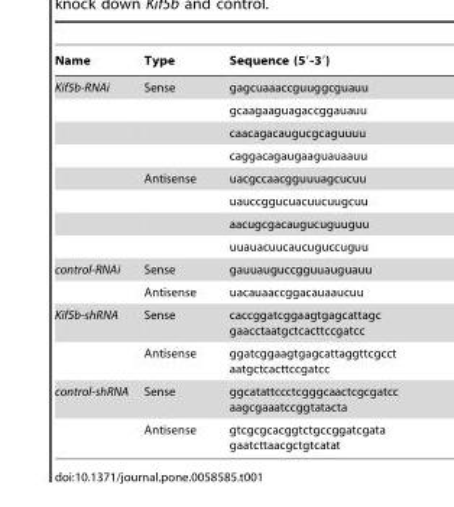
<table><thead><tr><td>Name</td><td>Type</td><td>Sequence (5′-3′)</td></tr></thead><tbody><tr><td rowspan="8">Kif5b-RNAi</td><td>Sense</td><td>gagcuaaaccguuggcguauu</td></tr><tr><td></td><td>gcaagaaguagaccggauauu</td></tr><tr><td></td><td>caacagacaugucgcaguuuu</td></tr><tr><td></td><td>caggacagaugaaguauaauu</td></tr><tr><td>Antisense</td><td>uacgccaacgguuuagcucuu</td></tr><tr><td></td><td>uauccggucuacuucuugcuu</td></tr><tr><td></td><td>aacugcgacaugucuguuguu</td></tr><tr><td></td><td>uuauacuucaucuguccuguu</td></tr><tr><td rowspan="2">control-RNAi</td><td>Sense</td><td>gauuauguccgguuauguauu</td></tr><tr><td>Antisense</td><td>uacauaaccggacauaaucuu</td></tr><tr><td rowspan="2">Kif5b-shRNA</td><td>Sense</td><td>caccggatcggaagtgagcattagc gaacctaatgctcacttccgatcc</td></tr><tr><td>Antisense</td><td>ggatcggaagtgagcattaggttcgcct aatgctcacttccgatcc</td></tr><tr><td rowspan="2">control-shRNA</td><td>Sense</td><td>ggcatattccctcgggcaactcgcgatcc aagcgaaatccggtatacta</td></tr><tr><td>Antisense</td><td>gtcgcgcacggtctgccggatcgata gaatcttaacgctgtcatat</td></tr></tbody></table>